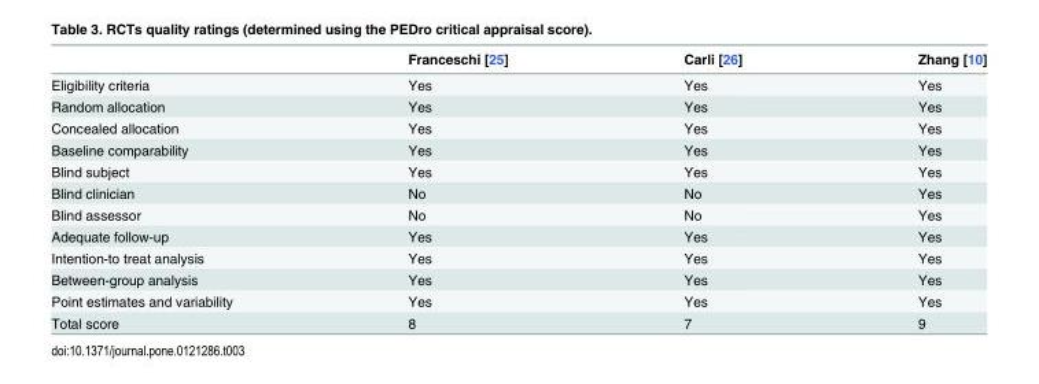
<table><thead><tr><td></td><td>Franceschi [25]</td><td>Carli [26]</td><td>Zhang [10]</td></tr></thead><tbody><tr><td>Eligibility criteria</td><td>Yes</td><td>Yes</td><td>Yes</td></tr><tr><td>Random allocation</td><td>Yes</td><td>Yes</td><td>Yes</td></tr><tr><td>Concealed allocation</td><td>Yes</td><td>Yes</td><td>Yes</td></tr><tr><td>Baseline comparability</td><td>Yes</td><td>Yes</td><td>Yes</td></tr><tr><td>Blind subject</td><td>Yes</td><td>Yes</td><td>Yes</td></tr><tr><td>Blind clinician</td><td>No</td><td>No</td><td>Yes</td></tr><tr><td>Blind assessor</td><td>No</td><td>No</td><td>Yes</td></tr><tr><td>Adequate follow-up</td><td>Yes</td><td>Yes</td><td>Yes</td></tr><tr><td>Intention-to treat analysis</td><td>Yes</td><td>Yes</td><td>Yes</td></tr><tr><td>Between-group analysis</td><td>Yes</td><td>Yes</td><td>Yes</td></tr><tr><td>Point estimates and variability</td><td>Yes</td><td>Yes</td><td>Yes</td></tr><tr><td>Total score</td><td>8</td><td>7</td><td>9</td></tr></tbody></table>